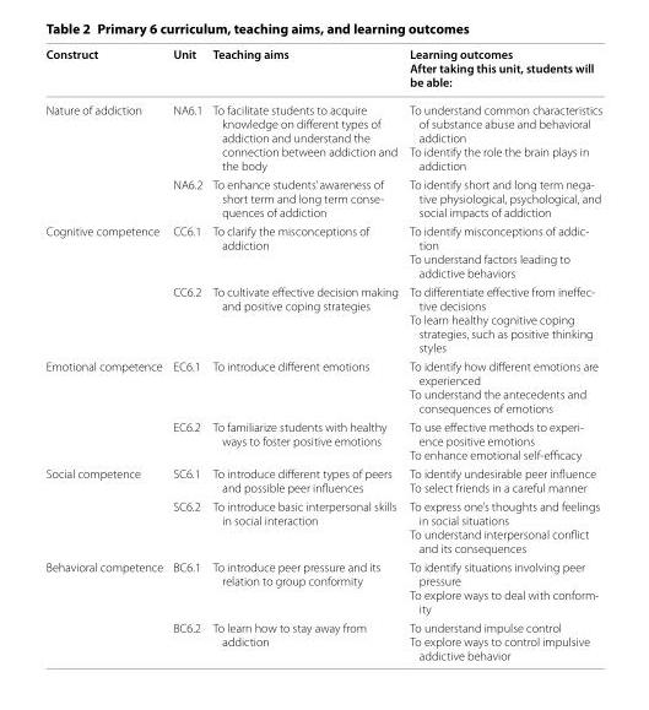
<table><thead><tr><td>Construct</td><td>Unit</td><td>Teaching aims</td><td>Learning outcomes After taking this unit, students will be able:</td></tr></thead><tbody><tr><td rowspan="2">Nature of addiction</td><td>NA6.1</td><td>To facilitate students to acquire knowledge on different types of addiction and understand the connection between addiction and the body</td><td>To understand common characteristics of substance abuse and behavioral addiction To identify the role the brain plays in addiction</td></tr><tr><td>NA6.2</td><td>To enhance students’ awareness of short term and long term conse- quences of addiction</td><td>To identify short and long term nega- tive physiological, psychological, and social impacts of addiction</td></tr><tr><td rowspan="2">Cognitive competence</td><td>CC6.1</td><td>To clarify the misconceptions of addiction</td><td>To identify misconceptions of addic- tion To understand factors leading to addictive behaviors</td></tr><tr><td>CC6.2</td><td>To cultivate effective decision making and positive coping strategies</td><td>To differentiate effective from ineffec- tive decisions To learn healthy cognitive coping strategies, such as positive thinking styles</td></tr><tr><td rowspan="2">Emotional competence</td><td>EC6.1</td><td>To introduce different emotions</td><td>To identify how different emotions are experienced To understand the antecedents and consequences of emotions</td></tr><tr><td>EC6.2</td><td>To familiarize students with healthy ways to foster positive emotions</td><td>To use effective methods to experi- ence positive emotions To enhance emotional self-efficacy</td></tr><tr><td rowspan="2">Social competence</td><td>SC6.1</td><td>To introduce different types of peers and possible peer influences</td><td>To identify undesirable peer influence To select friends in a careful manner</td></tr><tr><td>SC6.2</td><td>To introduce basic interpersonal skills in social interaction</td><td>To express one’s thoughts and feelings in social situations To understand interpersonal conflict and its consequences</td></tr><tr><td rowspan="2">Behavioral competence</td><td>BC6.1</td><td>To introduce peer pressure and its relation to group conformity</td><td>To identify situations involving peer pressure To explore ways to deal with conform- ity</td></tr><tr><td>BC6.2</td><td>To learn how to stay away from addiction</td><td>To understand impulse control To explore ways to control impulsive addictive behavior</td></tr></tbody></table>